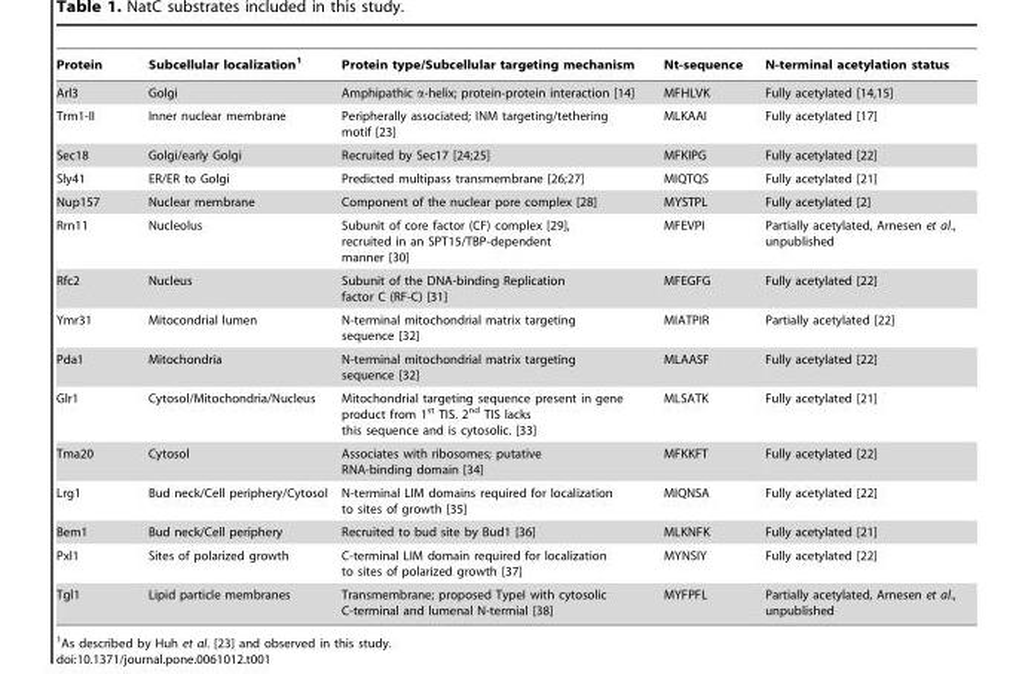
<table><thead><tr><td>Protein</td><td>Subcellular localization<sup>1</sup></td><td>Protein type/Subcellular targeting mechanism</td><td>Nt-sequence</td><td>N-terminal acetylation status</td></tr></thead><tbody><tr><td>Arl3</td><td>Golgi</td><td>Amphipathic α-helix; protein-protein interaction [14]</td><td>MFHLVK</td><td>Fully acetylated [14,15]</td></tr><tr><td>Trm1-II</td><td>Inner nuclear membrane</td><td>Peripherally associated; INM targeting/tethering motif [23]</td><td>MLKAAI</td><td>Fully acetylated [17]</td></tr><tr><td>Sec18</td><td>Golgi/early Golgi</td><td>Recruited by Sec17 [24;25]</td><td>MFKIPG</td><td>Fully acetylated [22]</td></tr><tr><td>Sly41</td><td>ER/ER to Golgi</td><td>Predicted multipass transmembrane [26;27]</td><td>MIQTQS</td><td>Fully acetylated [21]</td></tr><tr><td>Nup157</td><td>Nuclear membrane</td><td>Component of the nuclear pore complex [28]</td><td>MYSTPL</td><td>Fully acetylated [2]</td></tr><tr><td>Rrn11</td><td>Nucleolus</td><td>Subunit of core factor (CF) complex [29], recruited in an SPT15/TBP-dependent manner [30]</td><td>MFEVPI</td><td>Partially acetylated, Arnesen et al., unpublished</td></tr><tr><td>Rfc2</td><td>Nucleus</td><td>Subunit of the DNA-binding Replication factor C (RF-C) [31]</td><td>MFEGFG</td><td>Fully acetylated [22]</td></tr><tr><td>Ymr31</td><td>Mitocondrial lumen</td><td>N-terminal mitochondrial matrix targeting sequence [32]</td><td>MIATPIR</td><td>Partially acetylated [22]</td></tr><tr><td>Pda1</td><td>Mitochondria</td><td>N-terminal mitochondrial matrix targeting sequence [32]</td><td>MLAASF</td><td>Fully acetylated [22]</td></tr><tr><td>Glr1</td><td>Cytosol/Mitochondria/Nucleus</td><td>Mitochondrial targeting sequence present in gene product from 1<sup>st</sup> TIS. 2<sup>nd</sup> TIS lacks this sequence and is cytosolic. [33]</td><td>MLSATK</td><td>Fully acetylated [21]</td></tr><tr><td>Tma20</td><td>Cytosol</td><td>Associates with ribosomes; putative RNA-binding domain [34]</td><td>MFKKFT</td><td>Fully acetylated [22]</td></tr><tr><td>Lrg1</td><td>Bud neck/Cell periphery/Cytosol</td><td>N-terminal LIM domains required for localization to sites of growth [35]</td><td>MIQNSA</td><td>Fully acetylated [22]</td></tr><tr><td>Bem1</td><td>Bud neck/Cell periphery</td><td>Recruited to bud site by Bud1 [36]</td><td>MLKNFK</td><td>Fully acetylated [21]</td></tr><tr><td>Pxl1</td><td>Sites of polarized growth</td><td>C-terminal LIM domain required for localization to sites of polarized growth [37]</td><td>MYNSIY</td><td>Fully acetylated [22]</td></tr><tr><td>Tgl1</td><td>Lipid particle membranes</td><td>Transmembrane; proposed TypeI with cytosolic C-terminal and lumenal N-termial [38]</td><td>MYFPFL</td><td>Partially acetylated, Arnesen et al., unpublished</td></tr></tbody></table>